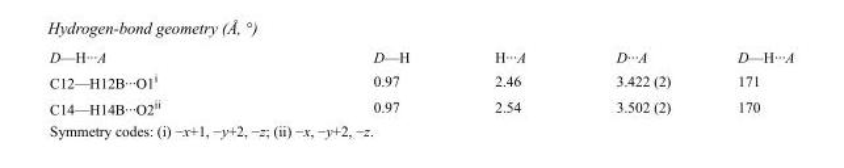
<table><tbody><tr><td>D—H···A</td><td>D—H</td><td>H···A</td><td>D···A</td><td>D—H···A</td></tr><tr><td>C12—H12B···O1<sup>i</sup></td><td>0.97</td><td>2.46</td><td>3.422 (2)</td><td>171</td></tr><tr><td>C14—H14B···O2<sup>ii</sup></td><td>0.97</td><td>2.54</td><td>3.502 (2)</td><td>170</td></tr></tbody></table>